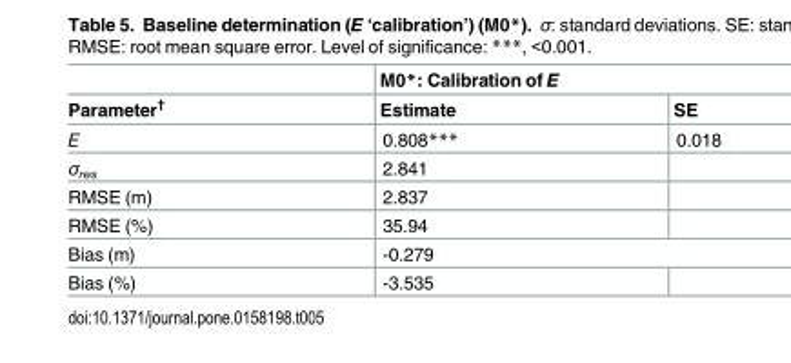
<table><thead><tr><td rowspan="2">Parameter<sup>†</sup></td><td colspan="2">M0*: Calibration of E</td></tr><tr><td>Estimate</td><td>SE</td></tr></thead><tbody><tr><td>E</td><td>0.808***</td><td>0.018</td></tr><tr><td>σ<sub>res</sub></td><td>2.841</td><td></td></tr><tr><td>RMSE (m)</td><td>2.837</td><td></td></tr><tr><td>RMSE (%)</td><td>35.94</td><td></td></tr><tr><td>Bias (m)</td><td colspan="2">-0.279</td></tr><tr><td>Bias (%)</td><td>-3.535</td><td></td></tr></tbody></table>